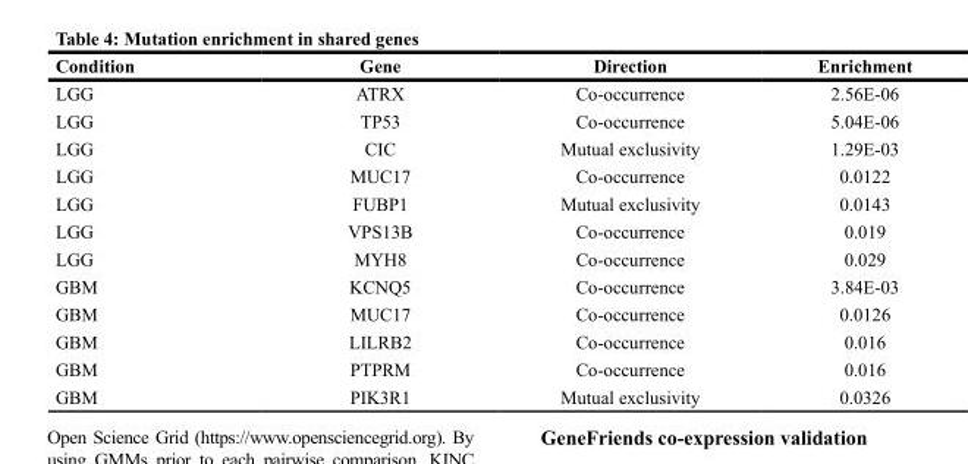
<table><thead><tr><td>Condition</td><td>Gene</td><td>Direction</td><td>Enrichment</td></tr></thead><tbody><tr><td>LGG</td><td>ATRX</td><td>Co-occurrence</td><td>2.56E-06</td></tr><tr><td>LGG</td><td>TP53</td><td>Co-occurrence</td><td>5.04E-06</td></tr><tr><td>LGG</td><td>CIC</td><td>Mutual exclusivity</td><td>1.29E-03</td></tr><tr><td>LGG</td><td>MUC17</td><td>Co-occurrence</td><td>0.0122</td></tr><tr><td>LGG</td><td>FUBP1</td><td>Mutual exclusivity</td><td>0.0143</td></tr><tr><td>LGG</td><td>VPS13B</td><td>Co-occurrence</td><td>0.019</td></tr><tr><td>LGG</td><td>MYH8</td><td>Co-occurrence</td><td>0.029</td></tr><tr><td>GBM</td><td>KCNQ5</td><td>Co-occurrence</td><td>3.84E-03</td></tr><tr><td>GBM</td><td>MUC17</td><td>Co-occurrence</td><td>0.0126</td></tr><tr><td>GBM</td><td>LILRB2</td><td>Co-occurrence</td><td>0.016</td></tr><tr><td>GBM</td><td>PTPRM</td><td>Co-occurrence</td><td>0.016</td></tr><tr><td>GBM</td><td>PIK3R1</td><td>Mutual exclusivity</td><td>0.0326</td></tr></tbody></table>